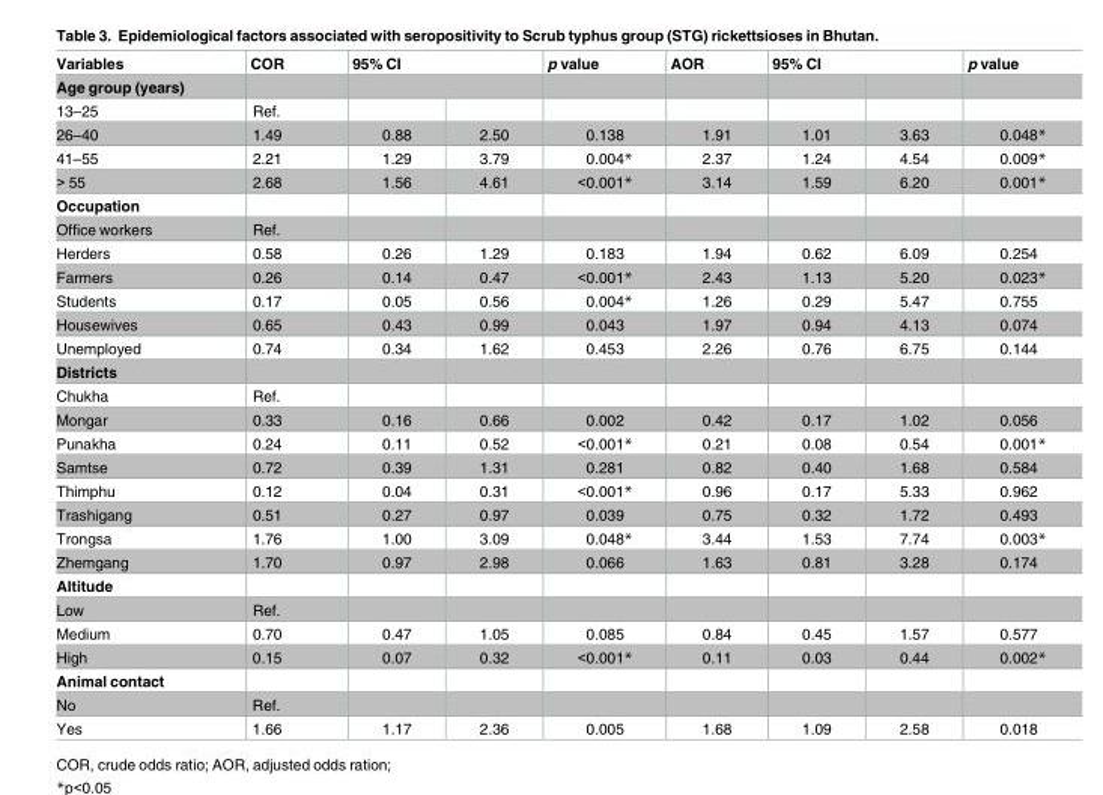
<table><thead><tr><td rowspan="3">Variables Age group (years) 13–25</td><td rowspan="3">COR Ref.</td><td rowspan="2" colspan="2">95% CI</td><td rowspan="3">p value</td><td rowspan="3">AOR</td><td colspan="2">95% CI</td><td rowspan="3">p value</td></tr><tr><td rowspan="2"></td><td rowspan="2"></td></tr><tr><td></td><td></td></tr></thead><tbody><tr><td>26–40</td><td>1.49</td><td>0.88</td><td>2.50</td><td>0.138</td><td>1.91</td><td>1.01</td><td>3.63</td><td>0.048*</td></tr><tr><td>41–55</td><td>2.21</td><td>1.29</td><td>3.79</td><td>0.004*</td><td>2.37</td><td>1.24</td><td>4.54</td><td>0.009*</td></tr><tr><td>&gt; 55</td><td>2.68</td><td>1.56</td><td>4.61</td><td>&lt;0.001*</td><td>3.14</td><td>1.59</td><td>6.20</td><td>0.001*</td></tr><tr><td colspan="9">Occupation</td></tr><tr><td>Office workers</td><td>Ref.</td><td></td><td></td><td></td><td></td><td></td><td></td><td></td></tr><tr><td>Herders</td><td>0.58</td><td>0.26</td><td>1.29</td><td>0.183</td><td>1.94</td><td>0.62</td><td>6.09</td><td>0.254</td></tr><tr><td>Farmers</td><td>0.26</td><td>0.14</td><td>0.47</td><td>&lt;0.001*</td><td>2.43</td><td>1.13</td><td>5.20</td><td>0.023*</td></tr><tr><td>Students</td><td>0.17</td><td>0.05</td><td>0.56</td><td>0.004*</td><td>1.26</td><td>0.29</td><td>5.47</td><td>0.755</td></tr><tr><td>Housewives</td><td>0.65</td><td>0.43</td><td>0.99</td><td>0.043</td><td>1.97</td><td>0.94</td><td>4.13</td><td>0.074</td></tr><tr><td>Unemployed</td><td>0.74</td><td>0.34</td><td>1.62</td><td>0.453</td><td>2.26</td><td>0.76</td><td>6.75</td><td>0.144</td></tr><tr><td colspan="9">Districts</td></tr><tr><td>Chukha</td><td>Ref.</td><td></td><td></td><td></td><td></td><td></td><td></td><td></td></tr><tr><td>Mongar</td><td>0.33</td><td>0.16</td><td>0.66</td><td>0.002</td><td>0.42</td><td>0.17</td><td>1.02</td><td>0.056</td></tr><tr><td>Punakha</td><td>0.24</td><td>0.11</td><td>0.52</td><td>&lt;0.001*</td><td>0.21</td><td>0.08</td><td>0.54</td><td>0.001*</td></tr><tr><td>Samtse</td><td>0.72</td><td>0.39</td><td>1.31</td><td>0.281</td><td>0.82</td><td>0.40</td><td>1.68</td><td>0.584</td></tr><tr><td>Thimphu</td><td>0.12</td><td>0.04</td><td>0.31</td><td>&lt;0.001*</td><td>0.96</td><td>0.17</td><td>5.33</td><td>0.962</td></tr><tr><td>Trashigang</td><td>0.51</td><td>0.27</td><td>0.97</td><td>0.039</td><td>0.75</td><td>0.32</td><td>1.72</td><td>0.493</td></tr><tr><td>Trongsa</td><td>1.76</td><td>1.00</td><td>3.09</td><td>0.048*</td><td>3.44</td><td>1.53</td><td>7.74</td><td>0.003*</td></tr><tr><td>Zhemgang</td><td>1.70</td><td>0.97</td><td>2.98</td><td>0.066</td><td>1.63</td><td>0.81</td><td>3.28</td><td>0.174</td></tr><tr><td colspan="9">Altitude</td></tr><tr><td>Low</td><td>Ref.</td><td></td><td></td><td></td><td></td><td></td><td></td><td></td></tr><tr><td>Medium</td><td>0.70</td><td>0.47</td><td>1.05</td><td>0.085</td><td>0.84</td><td>0.45</td><td>1.57</td><td>0.577</td></tr><tr><td>High</td><td>0.15</td><td>0.07</td><td>0.32</td><td>&lt;0.001*</td><td>0.11</td><td>0.03</td><td>0.44</td><td>0.002*</td></tr><tr><td colspan="9">Animal contact</td></tr><tr><td>No</td><td>Ref.</td><td></td><td></td><td></td><td></td><td></td><td></td><td></td></tr><tr><td>Yes</td><td>1.66</td><td>1.17</td><td>2.36</td><td>0.005</td><td>1.68</td><td>1.09</td><td>2.58</td><td>0.018</td></tr></tbody></table>